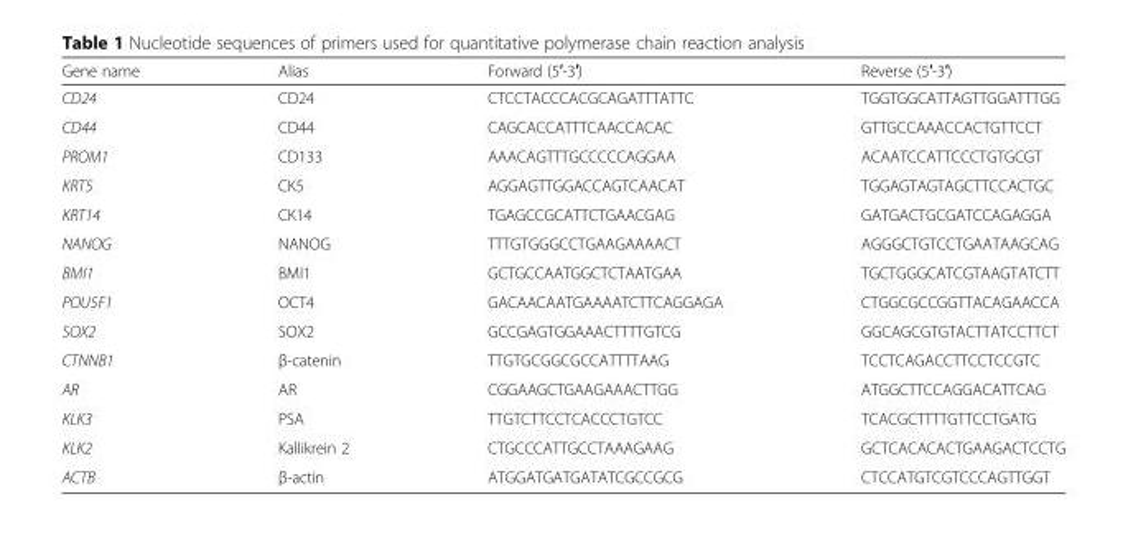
<table><thead><tr><td>Gene name</td><td>Alias</td><td>Forward (5′-3′)</td><td>Reverse (5′-3′)</td></tr></thead><tbody><tr><td>CD24</td><td>CD24</td><td>CTCCTACCCACGCAGATTTATTC</td><td>TGGTGGCATTAGTTGGATTTGG</td></tr><tr><td>CD44</td><td>CD44</td><td>CAGCACCATTTCAACCACAC</td><td>GTTGCCAAACCACTGTTCCT</td></tr><tr><td>PROM1</td><td>CD133</td><td>AAACAGTTTGCCCCCAGGAA</td><td>ACAATCCATTCCCTGTGCGT</td></tr><tr><td>KRT5</td><td>CK5</td><td>AGGAGTTGGACCAGTCAACAT</td><td>TGGAGTAGTAGCTTCCACTGC</td></tr><tr><td>KRT14</td><td>CK14</td><td>TGAGCCGCATTCTGAACGAG</td><td>GATGACTGCGATCCAGAGGA</td></tr><tr><td>NANOG</td><td>NANOG</td><td>TTTGTGGGCCTGAAGAAAACT</td><td>AGGGCTGTCCTGAATAAGCAG</td></tr><tr><td>BMI1</td><td>BMI1</td><td>GCTGCCAATGGCTCTAATGAA</td><td>TGCTGGGCATCGTAAGTATCTT</td></tr><tr><td>POU5F1</td><td>OCT4</td><td>GACAACAATGAAAATCTTCAGGAGA</td><td>CTGGCGCCGGTTACAGAACCA</td></tr><tr><td>SOX2</td><td>SOX2</td><td>GCCGAGTGGAAACTTTTGTCG</td><td>GGCAGCGTGTACTTATCCTTCT</td></tr><tr><td>CTNNB1</td><td>β-catenin</td><td>TTGTGCGGCGCCATTTTAAG</td><td>TCCTCAGACCTTCCTCCGTC</td></tr><tr><td>AR</td><td>AR</td><td>CGGAAGCTGAAGAAACTTGG</td><td>ATGGCTTCCAGGACATTCAG</td></tr><tr><td>KLK3</td><td>PSA</td><td>TTGTCTTCCTCACCCTGTCC</td><td>TCACGCTTTTGTTCCTGATG</td></tr><tr><td>KLK2</td><td>Kallikrein 2</td><td>CTGCCCATTGCCTAAAGAAG</td><td>GCTCACACACTGAAGACTCCTG</td></tr><tr><td>ACTB</td><td>β-actin</td><td>ATGGATGATGATATCGCCGCG</td><td>CTCCATGTCGTCCCAGTTGGT</td></tr></tbody></table>